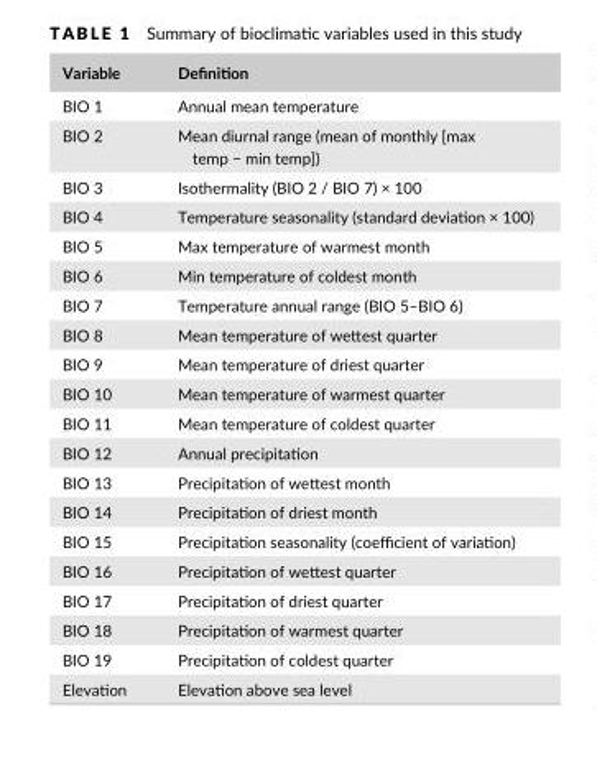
<table><thead><tr><td>Variable</td><td>Definition</td></tr></thead><tbody><tr><td>BIO 1</td><td>Annual mean temperature</td></tr><tr><td>BIO 2</td><td>M ean diurnal range (mean of monthly [max temp − min temp])</td></tr><tr><td>BIO 3</td><td>Isothermality (BIO 2 / BIO 7) × 100</td></tr><tr><td>BIO 4</td><td>Temperature seasonality (standard deviation × 100)</td></tr><tr><td>BIO 5</td><td>Max temperature of warmest month</td></tr><tr><td>BIO 6</td><td>Min temperature of coldest month</td></tr><tr><td>BIO 7</td><td>Temperature annual range (BIO 5–BIO 6)</td></tr><tr><td>BIO 8</td><td>Mean temperature of wettest quarter</td></tr><tr><td>BIO 9</td><td>Mean temperature of driest quarter</td></tr><tr><td>BIO 10</td><td>Mean temperature of warmest quarter</td></tr><tr><td>BIO 11</td><td>Mean temperature of coldest quarter</td></tr><tr><td>BIO 12</td><td>Annual precipitation</td></tr><tr><td>BIO 13</td><td>Precipitation of wettest month</td></tr><tr><td>BIO 14</td><td>Precipitation of driest month</td></tr><tr><td>BIO 15</td><td>Precipitation seasonality (coefficient of variation)</td></tr><tr><td>BIO 16</td><td>Precipitation of wettest quarter</td></tr><tr><td>BIO 17</td><td>Precipitation of driest quarter</td></tr><tr><td>BIO 18</td><td>Precipitation of warmest quarter</td></tr><tr><td>BIO 19</td><td>Precipitation of coldest quarter</td></tr><tr><td>Elevation</td><td>Elevation above sea level</td></tr></tbody></table>